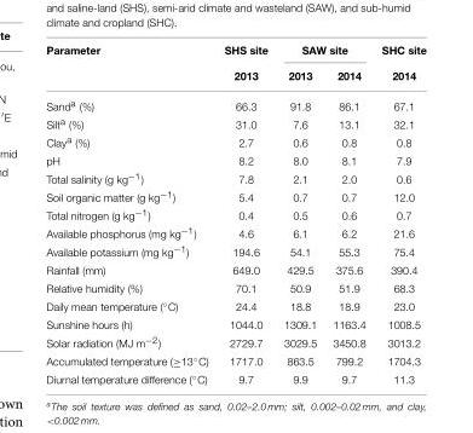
<table><thead><tr><td rowspan="2">Parameter</td><td rowspan="2">SHS site 2013</td><td colspan="2">SAW site</td><td rowspan="2">SHC site 2014</td></tr><tr><td>2013</td><td>2014</td></tr></thead><tbody><tr><td>Sand<sup>a</sup> (%)</td><td>66.3</td><td>91.8</td><td>86.1</td><td>67.1</td></tr><tr><td>Silt<sup>a</sup> (%)</td><td>31.0</td><td>7.6</td><td>13.1</td><td>32.1</td></tr><tr><td>Clay<sup>a</sup> (%)</td><td>2.7</td><td>0.6</td><td>0.8</td><td>0.8</td></tr><tr><td>pH</td><td>8.2</td><td>8.0</td><td>8.1</td><td>7.9</td></tr><tr><td>Total salinity (g kg<sup>−1</sup>)</td><td>7.8</td><td>2.1</td><td>2.0</td><td>0.6</td></tr><tr><td>Soil organic matter (g kg<sup>−1</sup>)</td><td>5.4</td><td>0.7</td><td>0.7</td><td>12.0</td></tr><tr><td>Total nitrogen (g kg<sup>−1</sup>)</td><td>0.4</td><td>0.5</td><td>0.6</td><td>0.7</td></tr><tr><td>Available phosphorus (mg kg<sup>−1</sup>)</td><td>4.6</td><td>6.1</td><td>6.2</td><td>21.6</td></tr><tr><td>Available potassium (mg kg<sup>−1</sup>)</td><td>194.6</td><td>54.1</td><td>55.3</td><td>75.4</td></tr><tr><td>Rainfall (mm)</td><td>649.0</td><td>429.5</td><td>375.6</td><td>390.4</td></tr><tr><td>Relative humidity (%)</td><td>70.1</td><td>50.9</td><td>51.9</td><td>68.3</td></tr><tr><td>Daily mean temperature (◦C)</td><td>24.4</td><td>18.8</td><td>18.9</td><td>23.0</td></tr><tr><td>Sunshine hours (h)</td><td>1044.0</td><td>1309.1</td><td>1163.4</td><td>1008.5</td></tr><tr><td>Solar radiation (MJ m<sup>−2</sup>)</td><td>2729.7</td><td>3029.5</td><td>3450.8</td><td>3013.2</td></tr><tr><td>Accumulated temperature (≥13◦C)</td><td>1717.0</td><td>863.5</td><td>799.2</td><td>1704.3</td></tr><tr><td>Diurnal temperature difference (◦C)</td><td>9.7</td><td>9.9</td><td>9.7</td><td>11.3</td></tr></tbody></table>